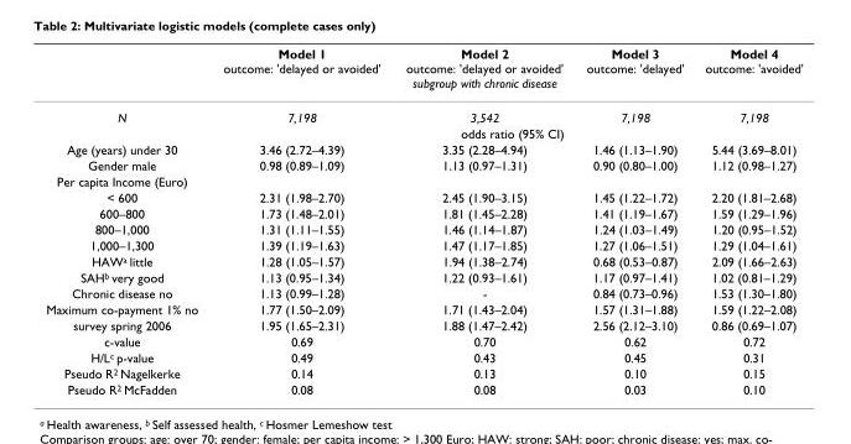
<table><thead><tr><td></td><td>Model 1 outcome: &#x27;delayed or avoided&#x27;</td><td>Model 2 outcome: &#x27;delayed or avoided&#x27; subgroup with chronic disease</td><td>Model 3 outcome: &#x27;delayed&#x27;</td><td>Model 4 outcome: &#x27;avoided&#x27;</td></tr></thead><tbody><tr><td rowspan="2">N</td><td>7,198</td><td>3,542</td><td>7,198</td><td>7,198</td></tr><tr><td colspan="4">odds ratio (95% CI)</td></tr><tr><td>Age (years) under 30</td><td>3.46 (2.72–4.39)</td><td>3.35 (2.28–4.94)</td><td>1.46 (1.13–1.90)</td><td>5.44 (3.69–8.01)</td></tr><tr><td>Gender male</td><td>0.98 (0.89–1.09)</td><td>1.13 (0.97–1.31)</td><td>0.90 (0.80–1.00)</td><td>1.12 (0.98–1.27)</td></tr><tr><td colspan="5">Per capita Income (Euro)</td></tr><tr><td>&lt; 600</td><td>2.31 (1.98–2.70)</td><td>2.45 (1.90–3.15)</td><td>1.45 (1.22–1.72)</td><td>2.20 (1.81–2.68)</td></tr><tr><td>600–800</td><td>1.73 (1.48–2.01)</td><td>1.81 (1.45–2.28)</td><td>1.41 (1.19–1.67)</td><td>1.59 (1.29–1.96)</td></tr><tr><td>800–1,000</td><td>1.31 (1.11–1.55)</td><td>1.46 (1.14–1.87)</td><td>1.24 (1.03–1.49)</td><td>1.20 (0.95–1.52)</td></tr><tr><td>1,000–1,300</td><td>1.39 (1.19–1.63)</td><td>1.47 (1.17–1.85)</td><td>1.27 (1.06–1.51)</td><td>1.29 (1.04–1.61)</td></tr><tr><td>HAW<sup>a</sup> little</td><td>1.28 (1.05–1.57)</td><td>1.94 (1.38–2.74)</td><td>0.68 (0.53–0.87)</td><td>2.09 (1.66–2.63)</td></tr><tr><td>SAH<sup>b</sup> very good</td><td>1.13 (0.95–1.34)</td><td>1.22 (0.93–1.61)</td><td>1.17 (0.97–1.41)</td><td>1.02 (0.81–1.29)</td></tr><tr><td>Chronic disease no</td><td>1.13 (0.99–1.28)</td><td>-</td><td>0.84 (0.73–0.96)</td><td>1.53 (1.30–1.80)</td></tr><tr><td>Maximum co-payment 1% no</td><td>1.77 (1.50–2.09)</td><td>1.71 (1.43–2.04)</td><td>1.57 (1.31–1.88)</td><td>1.59 (1.22–2.08)</td></tr><tr><td>survey spring 2006</td><td>1.95 (1.65–2.31)</td><td>1.88 (1.47–2.42)</td><td>2.56 (2.12–3.10)</td><td>0.86 (0.69–1.07)</td></tr><tr><td>c-value</td><td>0.69</td><td>0.70</td><td>0.62</td><td>0.72</td></tr><tr><td>H/L<sup>c</sup> p-value</td><td>0.49</td><td>0.43</td><td>0.45</td><td>0.31</td></tr><tr><td>Pseudo R<sup>2</sup> Nagelkerke</td><td>0.14</td><td>0.13</td><td>0.10</td><td>0.15</td></tr><tr><td>Pseudo R<sup>2</sup> McFadden</td><td>0.08</td><td>0.08</td><td>0.03</td><td>0.10</td></tr></tbody></table>